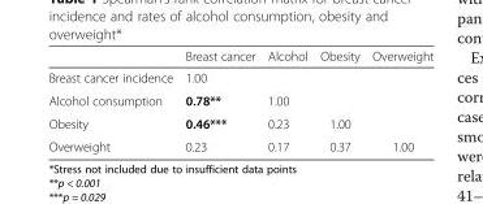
<table><thead><tr><td></td><td>Breast cancer</td><td>Alcohol</td><td>Obesity</td><td>Overweight</td></tr></thead><tbody><tr><td>Breast cancer incidence</td><td>1.00</td><td></td><td></td><td></td></tr><tr><td>Alcohol consumption</td><td>0.78**</td><td>1.00</td><td></td><td></td></tr><tr><td>Obesity</td><td>0.46***</td><td>0.23</td><td>1.00</td><td></td></tr><tr><td>Overweight</td><td>0.23</td><td>0.17</td><td>0.37</td><td>1.00</td></tr></tbody></table>